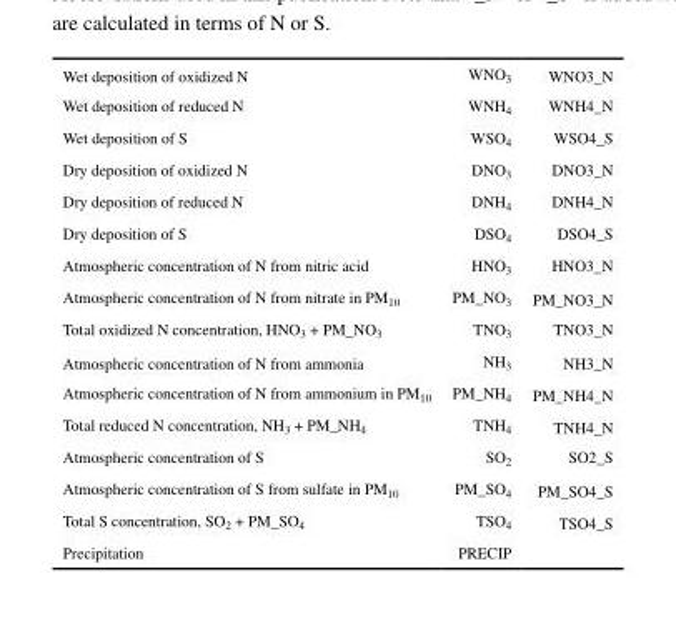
<table><tbody><tr><td>Wet deposition of oxidized N</td><td>WNO<sub>3</sub></td><td>WNO3_N</td></tr><tr><td>Wet deposition of reduced N</td><td>WNH<sub>4</sub></td><td>WNH4_N</td></tr><tr><td>Wet deposition of S</td><td>WSO<sub>4</sub></td><td>WSO4_S</td></tr><tr><td>Dry deposition of oxidized N</td><td>DNO<sub>3</sub></td><td>DNO3_N</td></tr><tr><td>Dry deposition of reduced N</td><td>DNH<sub>4</sub></td><td>DNH4_N</td></tr><tr><td>Dry deposition of S</td><td>DSO<sub>4</sub></td><td>DSO4_S</td></tr><tr><td>Atmospheric concentration of N from nitric acid</td><td>HNO<sub>3</sub></td><td>HNO3_N</td></tr><tr><td>Atmospheric concentration of N from nitrate in PM<sub>10</sub></td><td>PM_NO<sub>3</sub></td><td>PM_NO3_N</td></tr><tr><td>Total oxidized N concentration, HNO<sub>3</sub> + PM_NO<sub>3</sub></td><td>TNO<sub>3</sub></td><td>TNO3_N</td></tr><tr><td>Atmospheric concentration of N from ammonia</td><td>NH<sub>3</sub></td><td>NH3_N</td></tr><tr><td>Atmospheric concentration of N from ammonium in PM<sub>10</sub></td><td>PM_NH<sub>4</sub></td><td>PM_NH4_N</td></tr><tr><td>Total reduced N concentration, NH<sub>3</sub> + PM_NH<sub>4</sub></td><td>TNH<sub>4</sub></td><td>TNH4_N</td></tr><tr><td>Atmospheric concentration of S</td><td>SO<sub>2</sub></td><td>SO2_S</td></tr><tr><td>Atmospheric concentration of S from sulfate in PM<sub>10</sub></td><td>PM_SO<sub>4</sub></td><td>PM_SO4_S</td></tr><tr><td>Total S concentration, SO<sub>2</sub> + PM_SO<sub>4</sub></td><td>TSO<sub>4</sub></td><td>TSO4_S</td></tr><tr><td>Precipitation</td><td>PRECIP</td><td></td></tr></tbody></table>